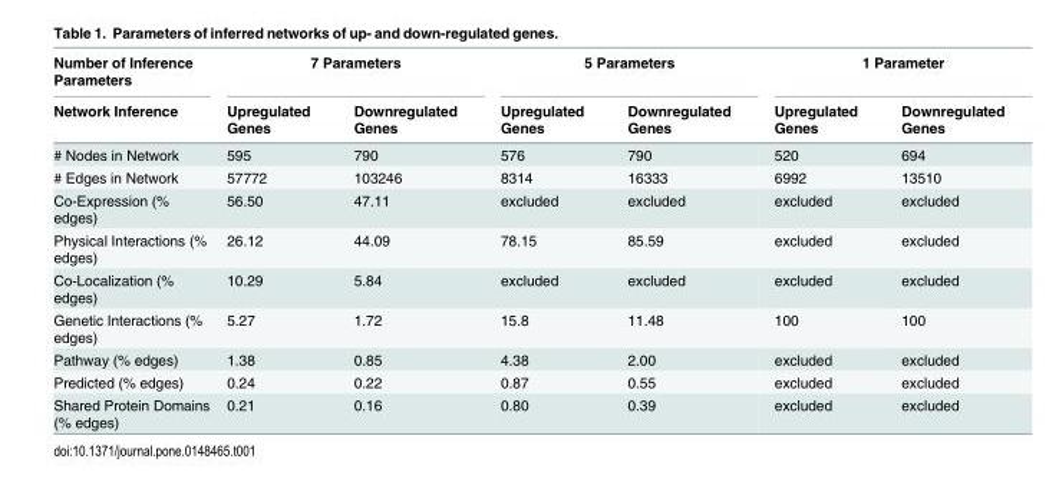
<table><thead><tr><td rowspan="2">Number of Inference Parameters Network Inference</td><td colspan="2">7 Parameters</td><td colspan="2">5 Parameters</td><td colspan="2">1 Parameter</td></tr><tr><td>Upregulated Genes</td><td>Downregulated Genes</td><td>Upregulated Genes</td><td>Downregulated Genes</td><td>Upregulated Genes</td><td>Downregulated Genes</td></tr></thead><tbody><tr><td># Nodes in Network</td><td>595</td><td>790</td><td>576</td><td>790</td><td>520</td><td>694</td></tr><tr><td># Edges in Network</td><td>57772</td><td>103246</td><td>8314</td><td>16333</td><td>6992</td><td>13510</td></tr><tr><td>Co-Expression (% edges)</td><td>56.50</td><td>47.11</td><td>excluded</td><td>excluded</td><td>excluded</td><td>excluded</td></tr><tr><td>Physical Interactions (% edges)</td><td>26.12</td><td>44.09</td><td>78.15</td><td>85.59</td><td>excluded</td><td>excluded</td></tr><tr><td>Co-Localization (% edges)</td><td>10.29</td><td>5.84</td><td>excluded</td><td>excluded</td><td>excluded</td><td>excluded</td></tr><tr><td>Genetic Interactions (% edges)</td><td>5.27</td><td>1.72</td><td>15.8</td><td>11.48</td><td>100</td><td>100</td></tr><tr><td>Pathway (% edges)</td><td>1.38</td><td>0.85</td><td>4.38</td><td>2.00</td><td>excluded</td><td>excluded</td></tr><tr><td>Predicted (% edges)</td><td>0.24</td><td>0.22</td><td>0.87</td><td>0.55</td><td>excluded</td><td>excluded</td></tr><tr><td>Shared Protein Domains (% edges)</td><td>0.21</td><td>0.16</td><td>0.80</td><td>0.39</td><td>excluded</td><td>excluded</td></tr></tbody></table>